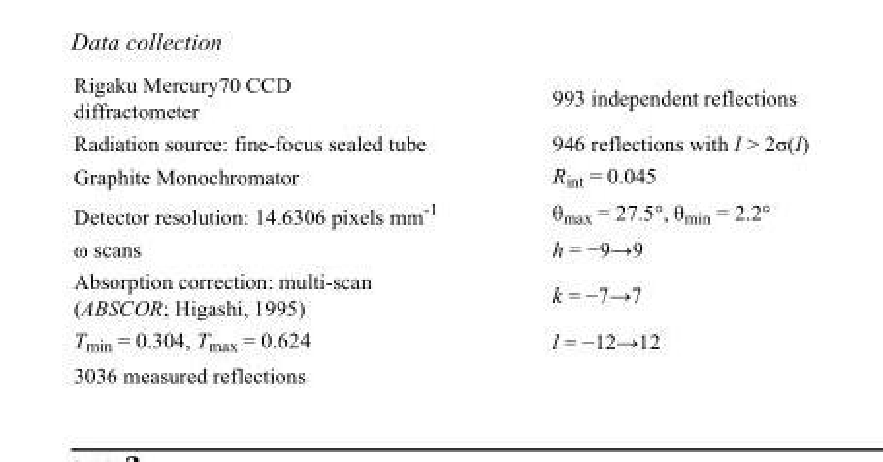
<table><tbody><tr><td>Rigaku Mercury70 CCD diffractometer</td><td>993 independent reflections</td></tr><tr><td>Radiation source: fine-focus sealed tube</td><td>946 reflections with I &gt; 2σ(I)</td></tr><tr><td>Graphite Monochromator</td><td>R<sub>int</sub> = 0.045</td></tr><tr><td>Detector resolution: 14.6306 pixels mm<sup>-1</sup></td><td>θ<sub>max</sub> = 27.5°, θ<sub>min</sub> = 2.2°</td></tr><tr><td>ω scans</td><td>h = −9→9</td></tr><tr><td>Absorption correction: multi-scan (ABSCOR; Higashi, 1995)</td><td>k = −7→7</td></tr><tr><td>T<sub>min</sub> = 0.304, T<sub>max</sub> = 0.624</td><td>l = −12→12</td></tr><tr><td>3036 measured reflections</td><td></td></tr></tbody></table>